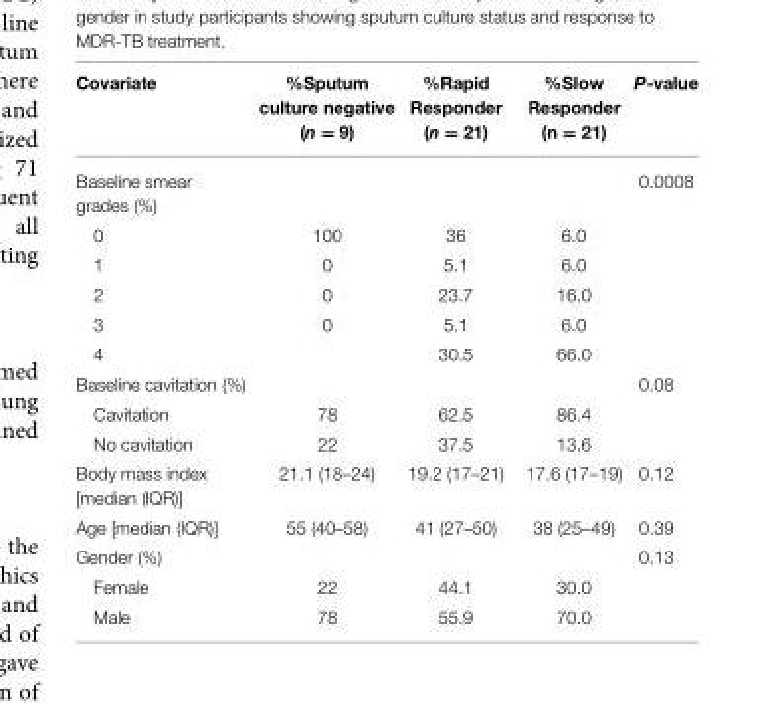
<table><thead><tr><td>Covariate</td><td>%Sputum culture negative (n = 9)</td><td>%Rapid Responder (n = 21)</td><td>%Slow Responder (n = 21)</td><td>P-value</td></tr></thead><tbody><tr><td>Baseline smear grades (%)</td><td></td><td></td><td></td><td>0.0008</td></tr><tr><td>0</td><td>100</td><td>36</td><td>6.0</td><td></td></tr><tr><td>1</td><td>0</td><td>5.1</td><td>6.0</td><td></td></tr><tr><td>2</td><td>0</td><td>23.7</td><td>16.0</td><td></td></tr><tr><td>3</td><td>0</td><td>5.1</td><td>6.0</td><td></td></tr><tr><td>4</td><td></td><td>30.5</td><td>66.0</td><td></td></tr><tr><td>Baseline cavitation (%)</td><td></td><td></td><td></td><td>0.08</td></tr><tr><td>Cavitation</td><td>78</td><td>62.5</td><td>86.4</td><td></td></tr><tr><td>No cavitation</td><td>22</td><td>37.5</td><td>13.6</td><td></td></tr><tr><td>Body mass index [median (IQR)]</td><td>21.1 (18–24)</td><td>19.2 (17–21)</td><td>17.6 (17–19)</td><td>0.12</td></tr><tr><td>Age [median (IQR)]</td><td>55 (40–58)</td><td>41 (27–50)</td><td>38 (25–49)</td><td>0.39</td></tr><tr><td>Gender (%)</td><td></td><td></td><td></td><td>0.13</td></tr><tr><td>Female</td><td>22</td><td>44.1</td><td>30.0</td><td></td></tr><tr><td>Male</td><td>78</td><td>55.9</td><td>70.0</td><td></td></tr></tbody></table>